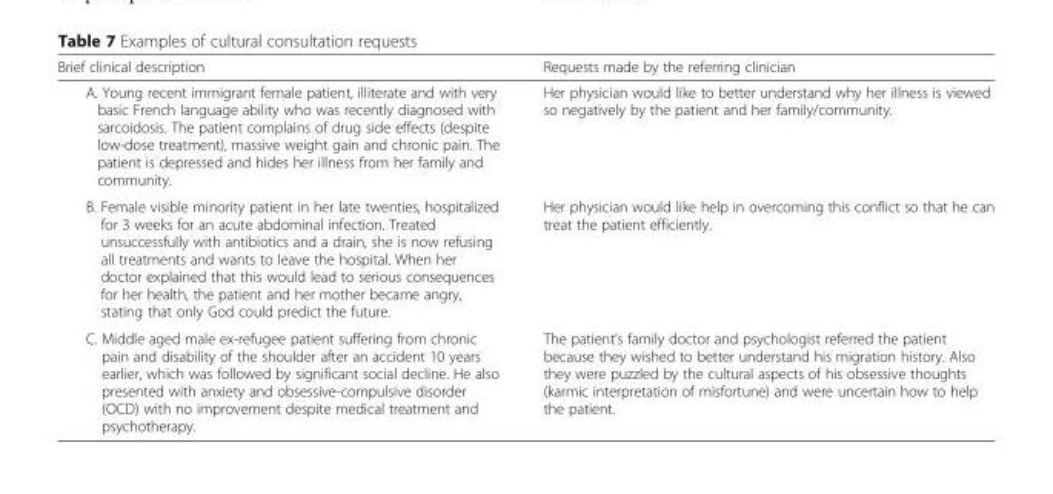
<table><thead><tr><td>Brief clinical description</td><td>Requests made by the referring clinician</td></tr></thead><tbody><tr><td>A. Young recent immigrant female patient, illiterate and with very basic French language ability who was recently diagnosed with sarcoidosis. The patient complains of drug side effects (despite low-dose treatment), massive weight gain and chronic pain. The patient is depressed and hides her illness from her family and community.</td><td>Her physician would like to better understand why her illness is viewed so negatively by the patient and her family/community.</td></tr><tr><td>B. Female visible minority patient in her late twenties, hospitalized for 3 weeks for an acute abdominal infection. Treated unsuccessfully with antibiotics and a drain, she is now refusing all treatments and wants to leave the hospital. When her doctor explained that this would lead to serious consequences for her health, the patient and her mother became angry, stating that only God could predict the future.</td><td>Her physician would like help in overcoming this conflict so that he can treat the patient efficiently.</td></tr><tr><td>C. Middle aged male ex-refugee patient suffering from chronic pain and disability of the shoulder after an accident 10 years earlier, which was followed by significant social decline. He also presented with anxiety and obsessive-compulsive disorder (OCD) with no improvement despite medical treatment and psychotherapy.</td><td>The patient’s family doctor and psychologist referred the patient because they wished to better understand his migration history. Also they were puzzled by the cultural aspects of his obsessive thoughts (karmic interpretation of misfortune) and were uncertain how to help the patient.</td></tr></tbody></table>